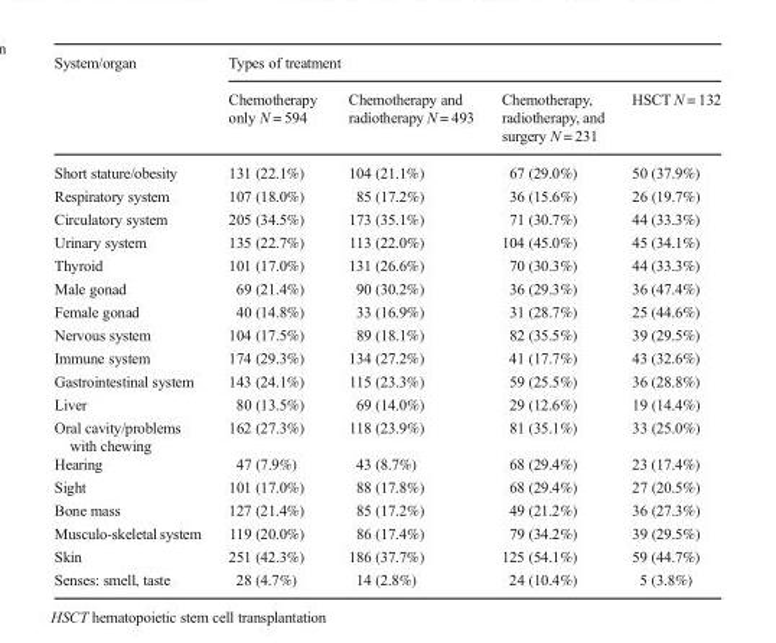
<table><thead><tr><td rowspan="2">System/organ</td><td colspan="4">Types of treatment</td></tr><tr><td>Chemotherapy only N = 594</td><td>Chemotherapy and radiotherapy N = 493</td><td>Chemotherapy, radiotherapy, and surgery N = 231</td><td>HSCT N = 132</td></tr></thead><tbody><tr><td>Short stature/obesity</td><td>131 (22.1%)</td><td>104 (21.1%)</td><td>67 (29.0%)</td><td>50 (37.9%)</td></tr><tr><td>Respiratory system</td><td>107 (18.0%)</td><td>85 (17.2%)</td><td>36 (15.6%)</td><td>26 (19.7%)</td></tr><tr><td>Circulatory system</td><td>205 (34.5%)</td><td>173 (35.1%)</td><td>71 (30.7%)</td><td>44 (33.3%)</td></tr><tr><td>Urinary system</td><td>135 (22.7%)</td><td>113 (22.0%)</td><td>104 (45.0%)</td><td>45 (34.1%)</td></tr><tr><td>Thyroid</td><td>101 (17.0%)</td><td>131 (26.6%)</td><td>70 (30.3%)</td><td>44 (33.3%)</td></tr><tr><td>Male gonad</td><td>69 (21.4%)</td><td>90 (30.2%)</td><td>36 (29.3%)</td><td>36 (47.4%)</td></tr><tr><td>Female gonad</td><td>40 (14.8%)</td><td>33 (16.9%)</td><td>31 (28.7%)</td><td>25 (44.6%)</td></tr><tr><td>Nervous system</td><td>104 (17.5%)</td><td>89 (18.1%)</td><td>82 (35.5%)</td><td>39 (29.5%)</td></tr><tr><td>Immune system</td><td>174 (29.3%)</td><td>134 (27.2%)</td><td>41 (17.7%)</td><td>43 (32.6%)</td></tr><tr><td>Gastrointestinal system</td><td>143 (24.1%)</td><td>115 (23.3%)</td><td>59 (25.5%)</td><td>36 (28.8%)</td></tr><tr><td>Liver</td><td>80 (13.5%)</td><td>69 (14.0%)</td><td>29 (12.6%)</td><td>19 (14.4%)</td></tr><tr><td>Oral cavity/problems with chewing</td><td>162 (27.3%)</td><td>118 (23.9%)</td><td>81 (35.1%)</td><td>33 (25.0%)</td></tr><tr><td>Hearing</td><td>47 (7.9%)</td><td>43 (8.7%)</td><td>68 (29.4%)</td><td>23 (17.4%)</td></tr><tr><td>Sight</td><td>101 (17.0%)</td><td>88 (17.8%)</td><td>68 (29.4%)</td><td>27 (20.5%)</td></tr><tr><td>Bone mass</td><td>127 (21.4%)</td><td>85 (17.2%)</td><td>49 (21.2%)</td><td>36 (27.3%)</td></tr><tr><td>Musculo-skeletal system</td><td>119 (20.0%)</td><td>86 (17.4%)</td><td>79 (34.2%)</td><td>39 (29.5%)</td></tr><tr><td>Skin</td><td>251 (42.3%)</td><td>186 (37.7%)</td><td>125 (54.1%)</td><td>59 (44.7%)</td></tr><tr><td>Senses: smell, taste</td><td>28 (4.7%)</td><td>14 (2.8%)</td><td>24 (10.4%)</td><td>5 (3.8%)</td></tr></tbody></table>